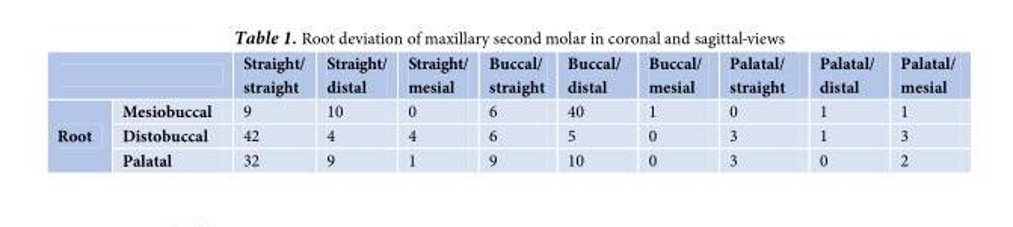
<table><thead><tr><td></td><td></td><td>Straight/ straight</td><td>Straight/ distal</td><td>Straight/ mesial</td><td>Buccal/ straight</td><td>Buccal/ distal</td><td>Buccal/ mesial</td><td>Palatal/ straight</td><td>Palatal/ distal</td><td>Palatal/ mesial</td></tr></thead><tbody><tr><td rowspan="3">Root</td><td>Mesiobuccal</td><td>9</td><td>10</td><td>0</td><td>6</td><td>40</td><td>1</td><td>0</td><td>1</td><td>1</td></tr><tr><td>Distobuccal</td><td>42</td><td>4</td><td>4</td><td>6</td><td>5</td><td>0</td><td>3</td><td>1</td><td>3</td></tr><tr><td>Palatal</td><td>32</td><td>9</td><td>1</td><td>9</td><td>10</td><td>0</td><td>3</td><td>0</td><td>2</td></tr></tbody></table>